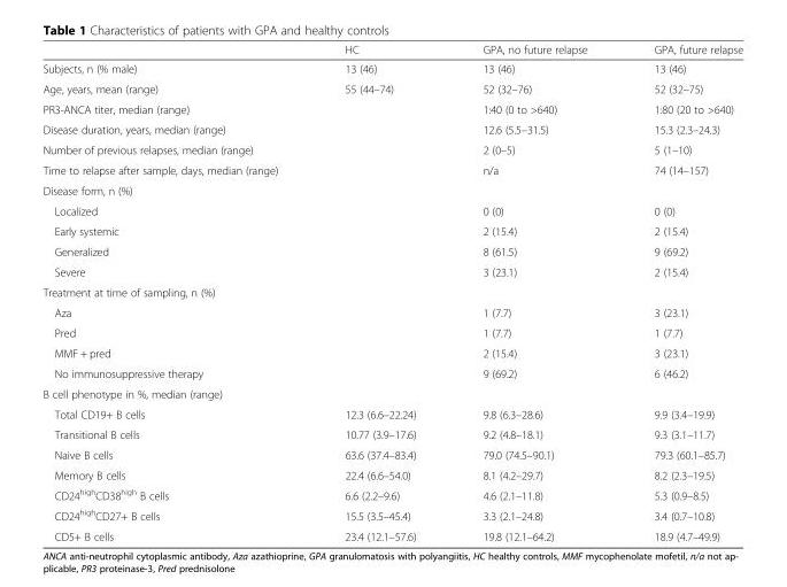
<table><thead><tr><td></td><td>HC</td><td>GPA, no future relapse</td><td>GPA, future relapse</td></tr></thead><tbody><tr><td>Subjects, n (% male)</td><td>13 (46)</td><td>13 (46)</td><td>13 (46)</td></tr><tr><td>Age, years, mean (range)</td><td>55 (44–74)</td><td>52 (32–76)</td><td>52 (32–75)</td></tr><tr><td>PR3-ANCA titer, median (range)</td><td></td><td>1:40 (0 to &gt;640)</td><td>1:80 (20 to &gt;640)</td></tr><tr><td>Disease duration, years, median (range)</td><td></td><td>12.6 (5.5–31.5)</td><td>15.3 (2.3–24.3)</td></tr><tr><td>Number of previous relapses, median (range)</td><td></td><td>2 (0–5)</td><td>5 (1–10)</td></tr><tr><td>Time to relapse after sample, days, median (range)</td><td></td><td>n/a</td><td>74 (14–157)</td></tr><tr><td colspan="4">Disease form, n (%)</td></tr><tr><td>Localized</td><td></td><td>0 (0)</td><td>0 (0)</td></tr><tr><td>Early systemic</td><td></td><td>2 (15.4)</td><td>2 (15.4)</td></tr><tr><td>Generalized</td><td></td><td>8 (61.5)</td><td>9 (69.2)</td></tr><tr><td>Severe</td><td></td><td>3 (23.1)</td><td>2 (15.4)</td></tr><tr><td colspan="4">Treatment at time of sampling, n (%)</td></tr><tr><td>Aza</td><td></td><td>1 (7.7)</td><td>3 (23.1)</td></tr><tr><td>Pred</td><td></td><td>1 (7.7)</td><td>1 (7.7)</td></tr><tr><td>MMF + pred</td><td></td><td>2 (15.4)</td><td>3 (23.1)</td></tr><tr><td>No immunosuppressive therapy</td><td></td><td>9 (69.2)</td><td>6 (46.2)</td></tr><tr><td colspan="4">B cell phenotype in %, median (range)</td></tr><tr><td>Total CD19+ B cells</td><td>12.3 (6.6–22.24)</td><td>9.8 (6.3–28.6)</td><td>9.9 (3.4–19.9)</td></tr><tr><td>Transitional B cells</td><td>10.77 (3.9–17.6)</td><td>9.2 (4.8–18.1)</td><td>9.3 (3.1–11.7)</td></tr><tr><td>Naive B cells</td><td>63.6 (37.4–83.4)</td><td>79.0 (74.5–90.1)</td><td>79.3 (60.1–85.7)</td></tr><tr><td>Memory B cells</td><td>22.4 (6.6–54.0)</td><td>8.1 (4.2–29.7)</td><td>8.2 (2.3–19.5)</td></tr><tr><td>CD24<sup>high</sup>CD38<sup>high</sup> B cells</td><td>6.6 (2.2–9.6)</td><td>4.6 (2.1–11.8)</td><td>5.3 (0.9–8.5)</td></tr><tr><td>CD24<sup>high</sup>CD27+ B cells</td><td>15.5 (3.5–45.4)</td><td>3.3 (2.1–24.8)</td><td>3.4 (0.7–10.8)</td></tr><tr><td>CD5+ B cells</td><td>23.4 (12.1–57.6)</td><td>19.8 (12.1–64.2)</td><td>18.9 (4.7–49.9)</td></tr></tbody></table>